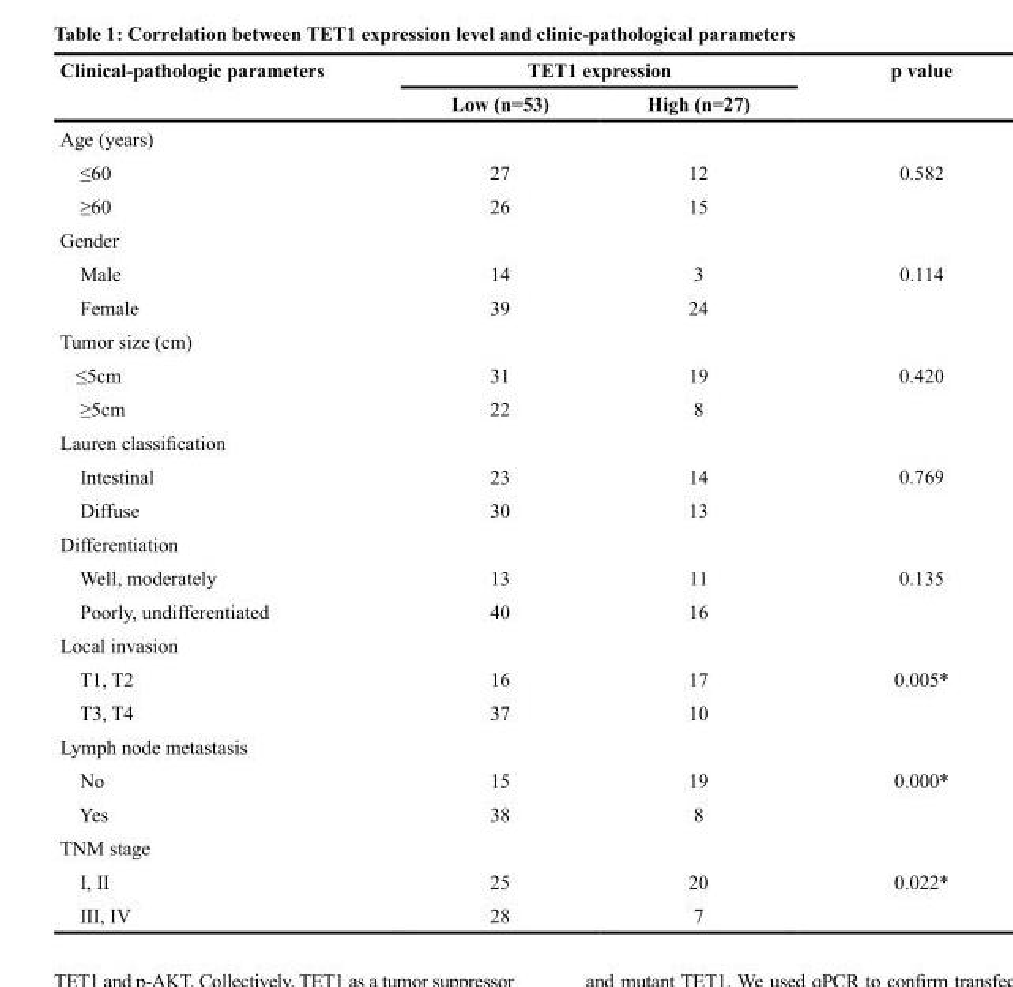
<table><thead><tr><td rowspan="2">Clinical-pathologic parameters</td><td colspan="2">TET1 expression</td><td rowspan="2">p value</td></tr><tr><td>Low (n=53)</td><td>High (n=27)</td></tr></thead><tbody><tr><td colspan="4">Age (years)</td></tr><tr><td>≤60</td><td>27</td><td>12</td><td>0.582</td></tr><tr><td>≥60</td><td>26</td><td>15</td><td></td></tr><tr><td colspan="4">Gender</td></tr><tr><td>Male</td><td>14</td><td>3</td><td>0.114</td></tr><tr><td>Female</td><td>39</td><td>24</td><td></td></tr><tr><td colspan="4">Tumor size (cm)</td></tr><tr><td>≤5cm</td><td>31</td><td>19</td><td>0.420</td></tr><tr><td>≥5cm</td><td>22</td><td>8</td><td></td></tr><tr><td colspan="4">Lauren classification</td></tr><tr><td>Intestinal</td><td>23</td><td>14</td><td>0.769</td></tr><tr><td>Diffuse</td><td>30</td><td>13</td><td></td></tr><tr><td colspan="4">Differentiation</td></tr><tr><td>Well, moderately</td><td>13</td><td>11</td><td>0.135</td></tr><tr><td>Poorly, undifferentiated</td><td>40</td><td>16</td><td></td></tr><tr><td colspan="4">Local invasion</td></tr><tr><td>T1, T2</td><td>16</td><td>17</td><td>0.005*</td></tr><tr><td>T3, T4</td><td>37</td><td>10</td><td></td></tr><tr><td colspan="4">Lymph node metastasis</td></tr><tr><td>No</td><td>15</td><td>19</td><td>0.000*</td></tr><tr><td>Yes</td><td>38</td><td>8</td><td></td></tr><tr><td colspan="4">TNM stage</td></tr><tr><td>I, II</td><td>25</td><td>20</td><td>0.022*</td></tr><tr><td>III, IV</td><td>28</td><td>7</td><td></td></tr></tbody></table>